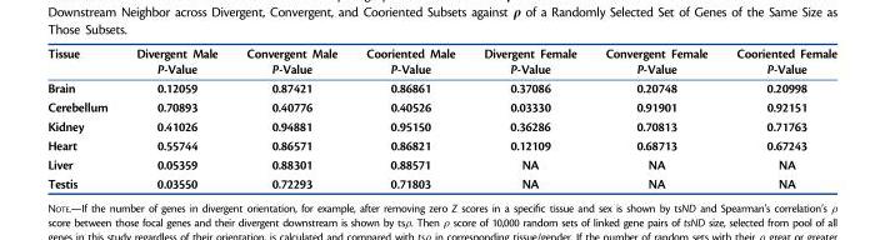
<table><thead><tr><td>Tissue</td><td>Divergent Male P-Value</td><td>Convergent Male P-Value</td><td>Cooriented Male P-Value</td><td>Divergent Female P-Value</td><td>Convergent Female P-Value</td><td>Cooriented Female P-Value</td></tr></thead><tbody><tr><td>Brain</td><td>0.12059</td><td>0.87421</td><td>0.86861</td><td>0.37086</td><td>0.20748</td><td>0.20998</td></tr><tr><td>Cerebellum</td><td>0.70893</td><td>0.40776</td><td>0.40526</td><td>0.03330</td><td>0.91901</td><td>0.92151</td></tr><tr><td>Kidney</td><td>0.41026</td><td>0.94881</td><td>0.95150</td><td>0.36286</td><td>0.70813</td><td>0.71763</td></tr><tr><td>Heart</td><td>0.55744</td><td>0.86571</td><td>0.86821</td><td>0.12109</td><td>0.68713</td><td>0.67243</td></tr><tr><td>Liver</td><td>0.05359</td><td>0.88301</td><td>0.88571</td><td>NA</td><td>NA</td><td>NA</td></tr><tr><td>Testis</td><td>0.03550</td><td>0.72293</td><td>0.71803</td><td>NA</td><td>NA</td><td>NA</td></tr></tbody></table>